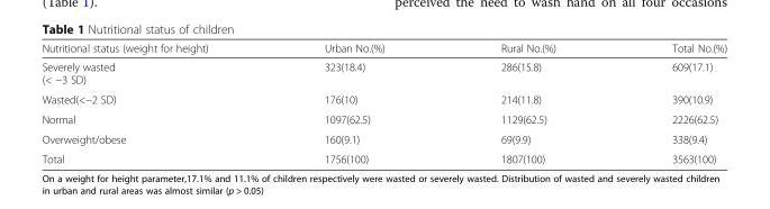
<table><thead><tr><td>Nutritional status (weight for height)</td><td>Urban No.(%)</td><td>Rural No.(%)</td><td>Total No.(%)</td></tr></thead><tbody><tr><td>Severely wasted (&lt; −3 SD)</td><td>323(18.4)</td><td>286(15.8)</td><td>609(17.1)</td></tr><tr><td>Wasted(&lt;−2 SD)</td><td>176(10)</td><td>214(11.8)</td><td>390(10.9)</td></tr><tr><td>Normal</td><td>1097(62.5)</td><td>1129(62.5)</td><td>2226(62.5)</td></tr><tr><td>Overweight/obese</td><td>160(9.1)</td><td>69(9.9)</td><td>338(9.4)</td></tr><tr><td>Total</td><td>1756(100)</td><td>1807(100)</td><td>3563(100)</td></tr></tbody></table>